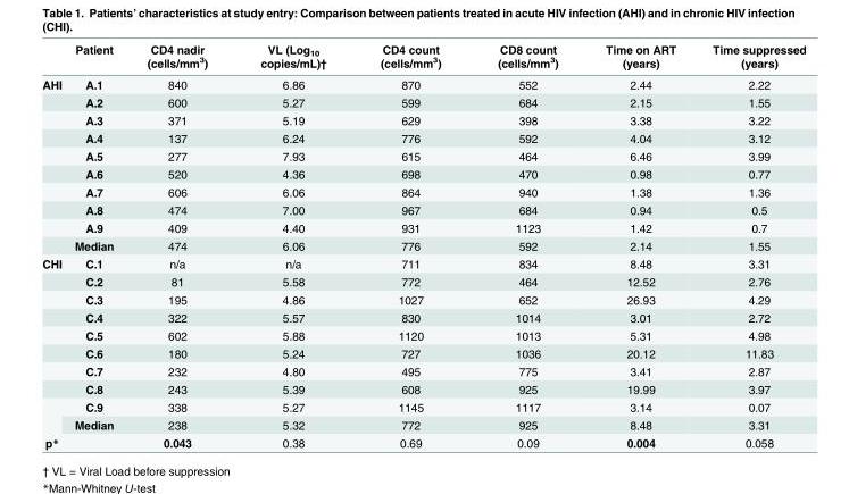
<table><thead><tr><td></td><td>Patient</td><td>CD4 nadir (cells/mm<sup>3</sup>)</td><td>VL (Log<sub>10</sub> copies/mL)†</td><td>CD4 count (cells/mm<sup>3</sup>)</td><td>CD8 count (cells/mm<sup>3</sup>)</td><td>Time on ART (years)</td><td>Time suppressed (years)</td></tr></thead><tbody><tr><td rowspan="10">AHI</td><td>A.1</td><td>840</td><td>6.86</td><td>870</td><td>552</td><td>2.44</td><td>2.22</td></tr><tr><td>A.2</td><td>600</td><td>5.27</td><td>599</td><td>684</td><td>2.15</td><td>1.55</td></tr><tr><td>A.3</td><td>371</td><td>5.19</td><td>629</td><td>398</td><td>3.38</td><td>3.22</td></tr><tr><td>A.4</td><td>137</td><td>6.24</td><td>776</td><td>592</td><td>4.04</td><td>3.12</td></tr><tr><td>A.5</td><td>277</td><td>7.93</td><td>615</td><td>464</td><td>6.46</td><td>3.99</td></tr><tr><td>A.6</td><td>520</td><td>4.36</td><td>698</td><td>470</td><td>0.98</td><td>0.77</td></tr><tr><td>A.7</td><td>606</td><td>6.06</td><td>864</td><td>940</td><td>1.38</td><td>1.36</td></tr><tr><td>A.8</td><td>474</td><td>7.00</td><td>967</td><td>684</td><td>0.94</td><td>0.5</td></tr><tr><td>A.9</td><td>409</td><td>4.40</td><td>931</td><td>1123</td><td>1.42</td><td>0.7</td></tr><tr><td>Median</td><td>474</td><td>6.06</td><td>776</td><td>592</td><td>2.14</td><td>1.55</td></tr><tr><td rowspan="10">CHI</td><td>C.1</td><td>n/a</td><td>n/a</td><td>711</td><td>834</td><td>8.48</td><td>3.31</td></tr><tr><td>C.2</td><td>81</td><td>5.58</td><td>772</td><td>464</td><td>12.52</td><td>2.76</td></tr><tr><td>C.3</td><td>195</td><td>4.86</td><td>1027</td><td>652</td><td>26.93</td><td>4.29</td></tr><tr><td>C.4</td><td>322</td><td>5.57</td><td>830</td><td>1014</td><td>3.01</td><td>2.72</td></tr><tr><td>C.5</td><td>602</td><td>5.88</td><td>1120</td><td>1013</td><td>5.31</td><td>4.98</td></tr><tr><td>C.6</td><td>180</td><td>5.24</td><td>727</td><td>1036</td><td>20.12</td><td>11.83</td></tr><tr><td>C.7</td><td>232</td><td>4.80</td><td>495</td><td>775</td><td>3.41</td><td>2.87</td></tr><tr><td>C.8</td><td>243</td><td>5.39</td><td>608</td><td>925</td><td>19.99</td><td>3.97</td></tr><tr><td>C.9</td><td>338</td><td>5.27</td><td>1145</td><td>1117</td><td>3.14</td><td>0.07</td></tr><tr><td>Median</td><td>238</td><td>5.32</td><td>772</td><td>925</td><td>8.48</td><td>3.31</td></tr><tr><td>p*</td><td></td><td>0.043</td><td>0.38</td><td>0.69</td><td>0.09</td><td>0.004</td><td>0.058</td></tr></tbody></table>